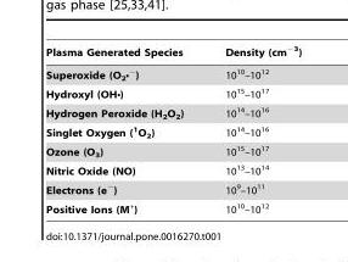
<table><thead><tr><td>Plasma Generated Species</td><td>Density (cm<sup>−3</sup>)</td></tr></thead><tbody><tr><td>Superoxide (O<sub>2</sub>•<sup>−</sup>)</td><td>10<sup>10</sup>–10<sup>12</sup></td></tr><tr><td>Hydroxyl (OH•)</td><td>10<sup>15</sup>–10<sup>17</sup></td></tr><tr><td>Hydrogen Peroxide (H<sub>2</sub>O<sub>2</sub>)</td><td>10<sup>14</sup>–10<sup>16</sup></td></tr><tr><td>Singlet Oxygen (<sup>1</sup>O<sub>2</sub>)</td><td>10<sup>14</sup>–10<sup>16</sup></td></tr><tr><td>Ozone (O<sub>3</sub>)</td><td>10<sup>15</sup>–10<sup>17</sup></td></tr><tr><td>Nitric Oxide (NO)</td><td>10<sup>13</sup>–10<sup>14</sup></td></tr><tr><td>Electrons (e<sup>−</sup>)</td><td>10<sup>9</sup>–10<sup>11</sup></td></tr><tr><td>Positive Ions (M<sup>+</sup>)</td><td>10<sup>10</sup>–10<sup>12</sup></td></tr></tbody></table>